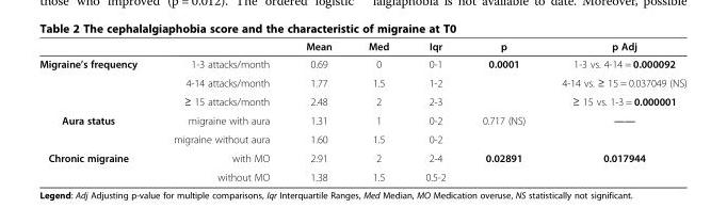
<table><thead><tr><td></td><td></td><td>Mean</td><td>Med</td><td>Iqr</td><td>p</td><td>p Adj</td></tr></thead><tbody><tr><td rowspan="3">Migraine’s frequency</td><td>1-3 attacks/month</td><td>0.69</td><td>0</td><td>0-1</td><td>0.0001</td><td>1-3 vs. 4-14 = 0.000092</td></tr><tr><td>4-14 attacks/month</td><td>1.77</td><td>1.5</td><td>1-2</td><td></td><td>4-14 vs. ≥ 15 = 0.037049 (NS)</td></tr><tr><td>≥ 15 attacks/month</td><td>2.48</td><td>2</td><td>2-3</td><td></td><td>≥ 15 vs. 1-3 = 0.000001</td></tr><tr><td rowspan="2">Aura status</td><td>migraine with aura</td><td>1.31</td><td>1</td><td>0-2</td><td>0.717 (NS)</td><td>――</td></tr><tr><td>migraine without aura</td><td>1.60</td><td>1.5</td><td>0-2</td><td></td><td></td></tr><tr><td rowspan="2">Chronic migraine</td><td>with MO</td><td>2.91</td><td>2</td><td>2-4</td><td>0.02891</td><td>0.017944</td></tr><tr><td>without MO</td><td>1.38</td><td>1.5</td><td>0.5-2</td><td></td><td></td></tr></tbody></table>